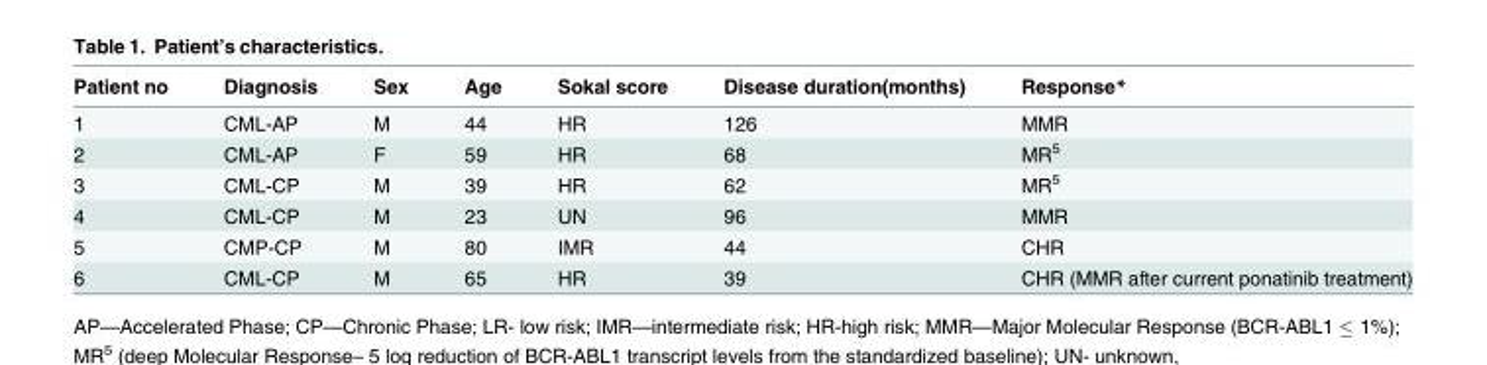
<table><thead><tr><td>Patient no</td><td>Diagnosis</td><td>Sex</td><td>Age</td><td>Sokal score</td><td>Disease duration(months)</td><td>Response*</td></tr></thead><tbody><tr><td>1</td><td>CML-AP</td><td>M</td><td>44</td><td>HR</td><td>126</td><td>MMR</td></tr><tr><td>2</td><td>CML-AP</td><td>F</td><td>59</td><td>HR</td><td>68</td><td>MR<sup>5</sup></td></tr><tr><td>3</td><td>CML-CP</td><td>M</td><td>39</td><td>HR</td><td>62</td><td>MR<sup>5</sup></td></tr><tr><td>4</td><td>CML-CP</td><td>M</td><td>23</td><td>UN</td><td>96</td><td>MMR</td></tr><tr><td>5</td><td>CMP-CP</td><td>M</td><td>80</td><td>IMR</td><td>44</td><td>CHR</td></tr><tr><td>6</td><td>CML-CP</td><td>M</td><td>65</td><td>HR</td><td>39</td><td>CHR (MMR after current ponatinib treatment)</td></tr></tbody></table>